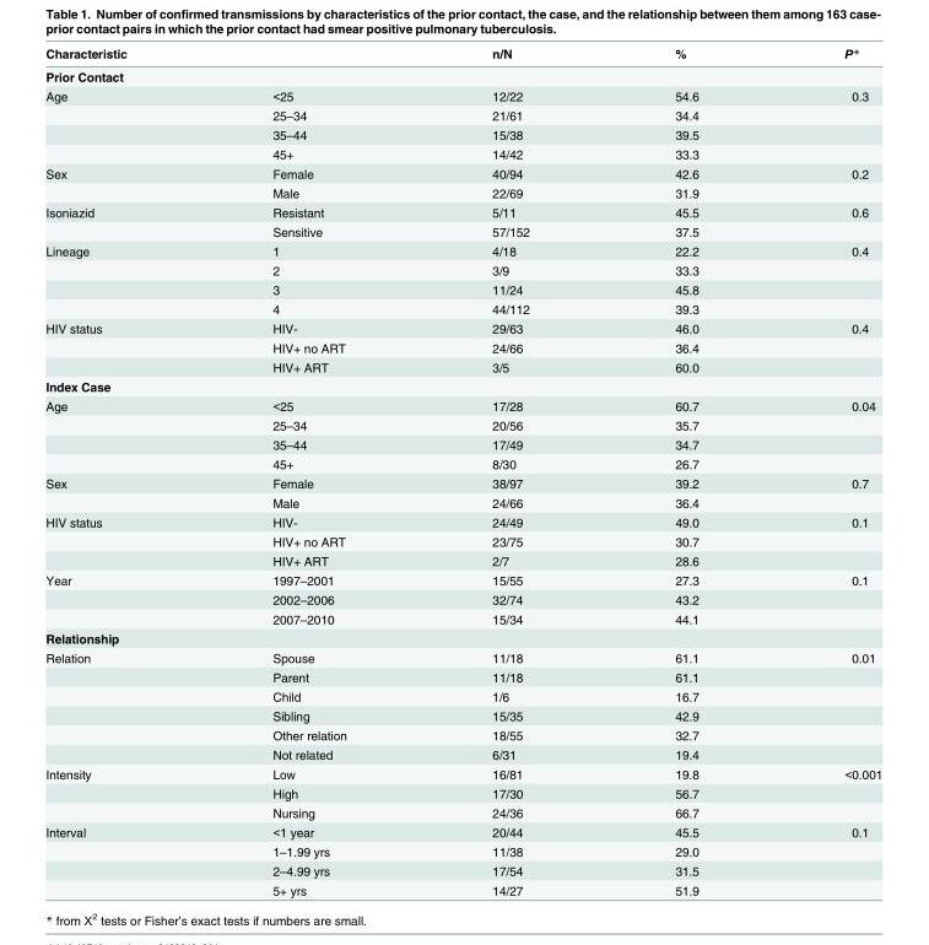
<table><thead><tr><td>Characteristic</td><td></td><td>n/N</td><td>%</td><td>P*</td></tr></thead><tbody><tr><td colspan="5">Prior Contact</td></tr><tr><td rowspan="4">Age</td><td>&lt;25</td><td>12/22</td><td>54.6</td><td>0.3</td></tr><tr><td>25–34</td><td>21/61</td><td>34.4</td><td></td></tr><tr><td>35–44</td><td>15/38</td><td>39.5</td><td></td></tr><tr><td>45+</td><td>14/42</td><td>33.3</td><td></td></tr><tr><td rowspan="2">Sex</td><td>Female</td><td>40/94</td><td>42.6</td><td>0.2</td></tr><tr><td>Male</td><td>22/69</td><td>31.9</td><td></td></tr><tr><td rowspan="2">Isoniazid</td><td>Resistant</td><td>5/11</td><td>45.5</td><td>0.6</td></tr><tr><td>Sensitive</td><td>57/152</td><td>37.5</td><td></td></tr><tr><td rowspan="4">Lineage</td><td>1</td><td>4/18</td><td>22.2</td><td>0.4</td></tr><tr><td>2</td><td>3/9</td><td>33.3</td><td></td></tr><tr><td>3</td><td>11/24</td><td>45.8</td><td></td></tr><tr><td>4</td><td>44/112</td><td>39.3</td><td></td></tr><tr><td rowspan="3">HIV status</td><td>HIV-</td><td>29/63</td><td>46.0</td><td>0.4</td></tr><tr><td>HIV+ no ART</td><td>24/66</td><td>36.4</td><td></td></tr><tr><td>HIV+ ART</td><td>3/5</td><td>60.0</td><td></td></tr><tr><td colspan="5">Index Case</td></tr><tr><td rowspan="4">Age</td><td>&lt;25</td><td>17/28</td><td>60.7</td><td>0.04</td></tr><tr><td>25–34</td><td>20/56</td><td>35.7</td><td></td></tr><tr><td>35–44</td><td>17/49</td><td>34.7</td><td></td></tr><tr><td>45+</td><td>8/30</td><td>26.7</td><td></td></tr><tr><td rowspan="2">Sex</td><td>Female</td><td>38/97</td><td>39.2</td><td>0.7</td></tr><tr><td>Male</td><td>24/66</td><td>36.4</td><td></td></tr><tr><td rowspan="3">HIV status</td><td>HIV-</td><td>24/49</td><td>49.0</td><td>0.1</td></tr><tr><td>HIV+ no ART</td><td>23/75</td><td>30.7</td><td></td></tr><tr><td>HIV+ ART</td><td>2/7</td><td>28.6</td><td></td></tr><tr><td rowspan="3">Year</td><td>1997–2001</td><td>15/55</td><td>27.3</td><td>0.1</td></tr><tr><td>2002–2006</td><td>32/74</td><td>43.2</td><td></td></tr><tr><td>2007–2010</td><td>15/34</td><td>44.1</td><td></td></tr><tr><td colspan="5">Relationship</td></tr><tr><td rowspan="6">Relation</td><td>Spouse</td><td>11/18</td><td>61.1</td><td>0.01</td></tr><tr><td>Parent</td><td>11/18</td><td>61.1</td><td></td></tr><tr><td>Child</td><td>1/6</td><td>16.7</td><td></td></tr><tr><td>Sibling</td><td>15/35</td><td>42.9</td><td></td></tr><tr><td>Other relation</td><td>18/55</td><td>32.7</td><td></td></tr><tr><td>Not related</td><td>6/31</td><td>19.4</td><td></td></tr><tr><td rowspan="3">Intensity</td><td>Low</td><td>16/81</td><td>19.8</td><td>&lt;0.001</td></tr><tr><td>High</td><td>17/30</td><td>56.7</td><td></td></tr><tr><td>Nursing</td><td>24/36</td><td>66.7</td><td></td></tr><tr><td rowspan="4">Interval</td><td>&lt;1 year</td><td>20/44</td><td>45.5</td><td>0.1</td></tr><tr><td>1–1.99 yrs</td><td>11/38</td><td>29.0</td><td></td></tr><tr><td>2–4.99 yrs</td><td>17/54</td><td>31.5</td><td></td></tr><tr><td>5+ yrs</td><td>14/27</td><td>51.9</td><td></td></tr></tbody></table>